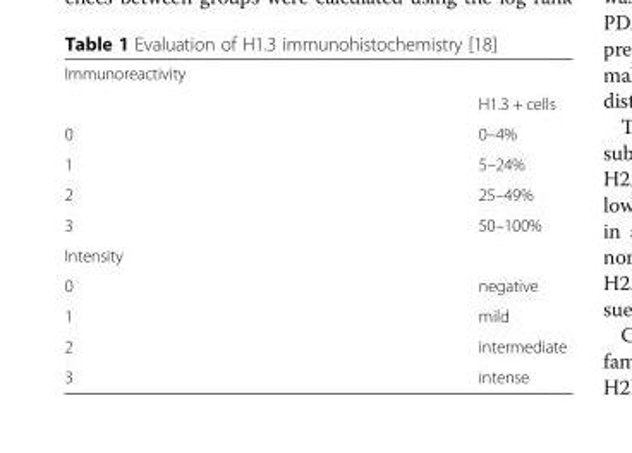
<table><tbody><tr><td colspan="2">Immunoreactivity</td></tr><tr><td></td><td>H1.3 + cells</td></tr><tr><td>0</td><td>0–4%</td></tr><tr><td>1</td><td>5–24%</td></tr><tr><td>2</td><td>25–49%</td></tr><tr><td>3</td><td>50–100%</td></tr><tr><td colspan="2">Intensity</td></tr><tr><td>0</td><td>negative</td></tr><tr><td>1</td><td>mild</td></tr><tr><td>2</td><td>intermediate</td></tr><tr><td>3</td><td>intense</td></tr></tbody></table>